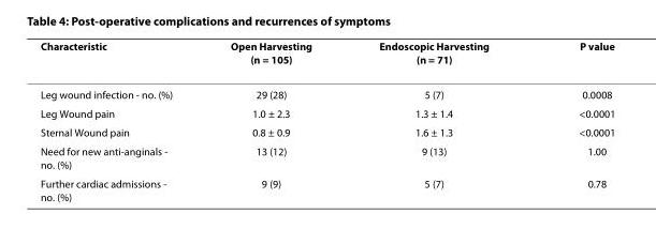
<table><thead><tr><td>Characteristic</td><td>Open Harvesting (n = 105)</td><td>Endoscopic Harvesting (n = 71)</td><td>P value</td></tr></thead><tbody><tr><td>Leg wound infection - no. (%)</td><td>29 (28)</td><td>5 (7)</td><td>0.0008</td></tr><tr><td>Leg Wound pain</td><td>1.0 ± 2.3</td><td>1.3 ± 1.4</td><td>&lt;0.0001</td></tr><tr><td>Sternal Wound pain</td><td>0.8 ± 0.9</td><td>1.6 ± 1.3</td><td>&lt;0.0001</td></tr><tr><td>Need for new anti-anginals - no. (%)</td><td>13 (12)</td><td>9 (13)</td><td>1.00</td></tr><tr><td>Further cardiac admissions - no. (%)</td><td>9 (9)</td><td>5 (7)</td><td>0.78</td></tr></tbody></table>